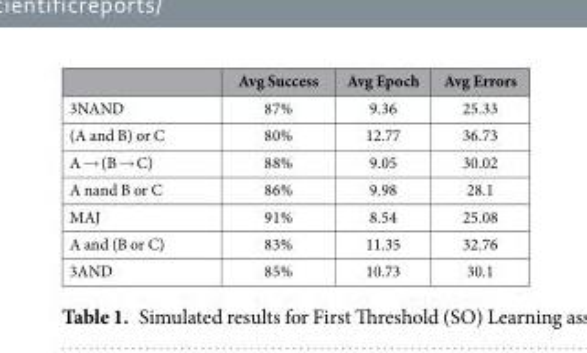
<table><thead><tr><td></td><td>Avg Success</td><td>Avg Epoch</td><td>Avg Errors</td></tr></thead><tbody><tr><td>3NAND</td><td>87%</td><td>9.36</td><td>25.33</td></tr><tr><td>(A and B) or C</td><td>80%</td><td>12.77</td><td>36.73</td></tr><tr><td>A → (B → C)</td><td>88%</td><td>9.05</td><td>30.02</td></tr><tr><td>A nand B or C</td><td>86%</td><td>9.98</td><td>28.1</td></tr><tr><td>MAJ</td><td>91%</td><td>8.54</td><td>25.08</td></tr><tr><td>A and (B or C)</td><td>83%</td><td>11.35</td><td>32.76</td></tr><tr><td>3AND</td><td>85%</td><td>10.73</td><td>30.1</td></tr></tbody></table>